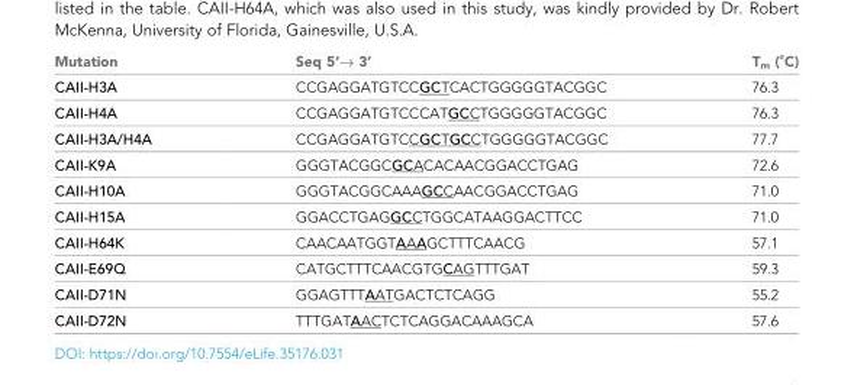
<table><thead><tr><td>Mutation</td><td>Seq 5’fi 3’</td><td>Tm (˚C)</td></tr></thead><tbody><tr><td>CAII-H3A</td><td>CCGAGGATGTCCGCTCACTGGGGGTACGGC</td><td>76.3</td></tr><tr><td>CAII-H4A</td><td>CCGAGGATGTCCCATGCCTGGGGGTACGGC</td><td>76.3</td></tr><tr><td>CAII-H3A/H4A</td><td>CCGAGGATGTCCGCTGCCTGGGGGTACGGC</td><td>77.7</td></tr><tr><td>CAII-K9A</td><td>GGGTACGGCGCACACAACGGACCTGAG</td><td>72.6</td></tr><tr><td>CAII-H10A</td><td>GGGTACGGCAAAGCCAACGGACCTGAG</td><td>71.0</td></tr><tr><td>CAII-H15A</td><td>GGACCTGAGGCCTGGCATAAGGACTTCC</td><td>71.0</td></tr><tr><td>CAII-H64K</td><td>CAACAATGGTAAAGCTTTCAACG</td><td>57.1</td></tr><tr><td>CAII-E69Q</td><td>CATGCTTTCAACGTGCAGTTTGAT</td><td>59.3</td></tr><tr><td>CAII-D71N</td><td>GGAGTTTAATGACTCTCAGG</td><td>55.2</td></tr><tr><td>CAII-D72N</td><td>TTTGATAACTCTCAGGACAAAGCA</td><td>57.6</td></tr></tbody></table>